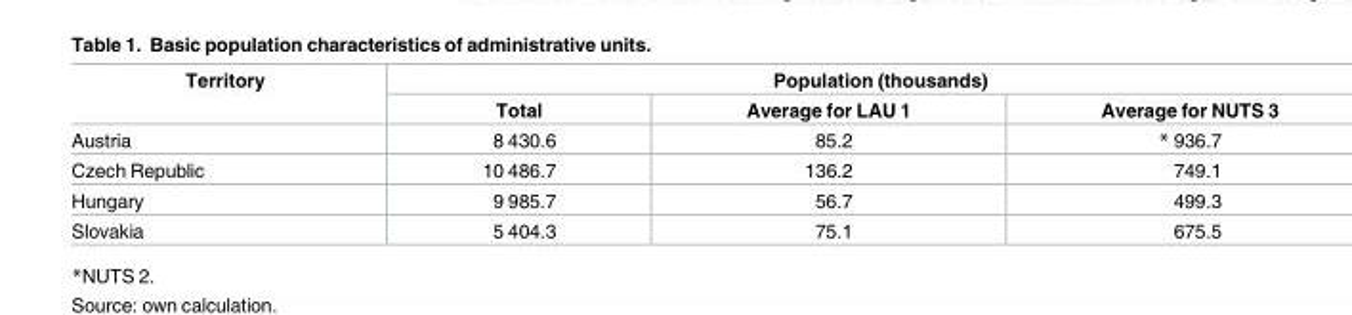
<table><thead><tr><td rowspan="2">Territory</td><td colspan="3">Population (thousands)</td></tr><tr><td>Total</td><td>Average for LAU 1</td><td>Average for NUTS 3</td></tr></thead><tbody><tr><td>Austria</td><td>8 430.6</td><td>85.2</td><td>* 936.7</td></tr><tr><td>Czech Republic</td><td>10 486.7</td><td>136.2</td><td>749.1</td></tr><tr><td>Hungary</td><td>9 985.7</td><td>56.7</td><td>499.3</td></tr><tr><td>Slovakia</td><td>5 404.3</td><td>75.1</td><td>675.5</td></tr></tbody></table>